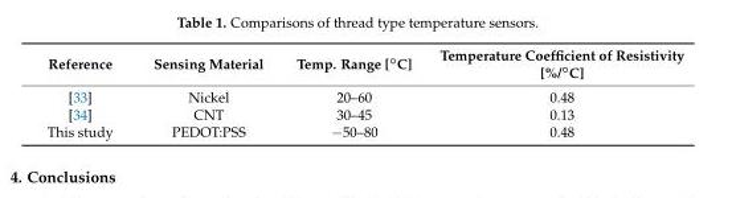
<table><thead><tr><td>Reference</td><td>Sensing Material</td><td>Temp. Range [◦C]</td><td>Temperature Coefficient of Resistivity [%/◦C]</td></tr></thead><tbody><tr><td>[33]</td><td>Nickel</td><td>20–60</td><td>0.48</td></tr><tr><td>[34]</td><td>CNT</td><td>30–45</td><td>0.13</td></tr><tr><td>This study</td><td>PEDOT:PSS</td><td>−50–80</td><td>0.48</td></tr></tbody></table>